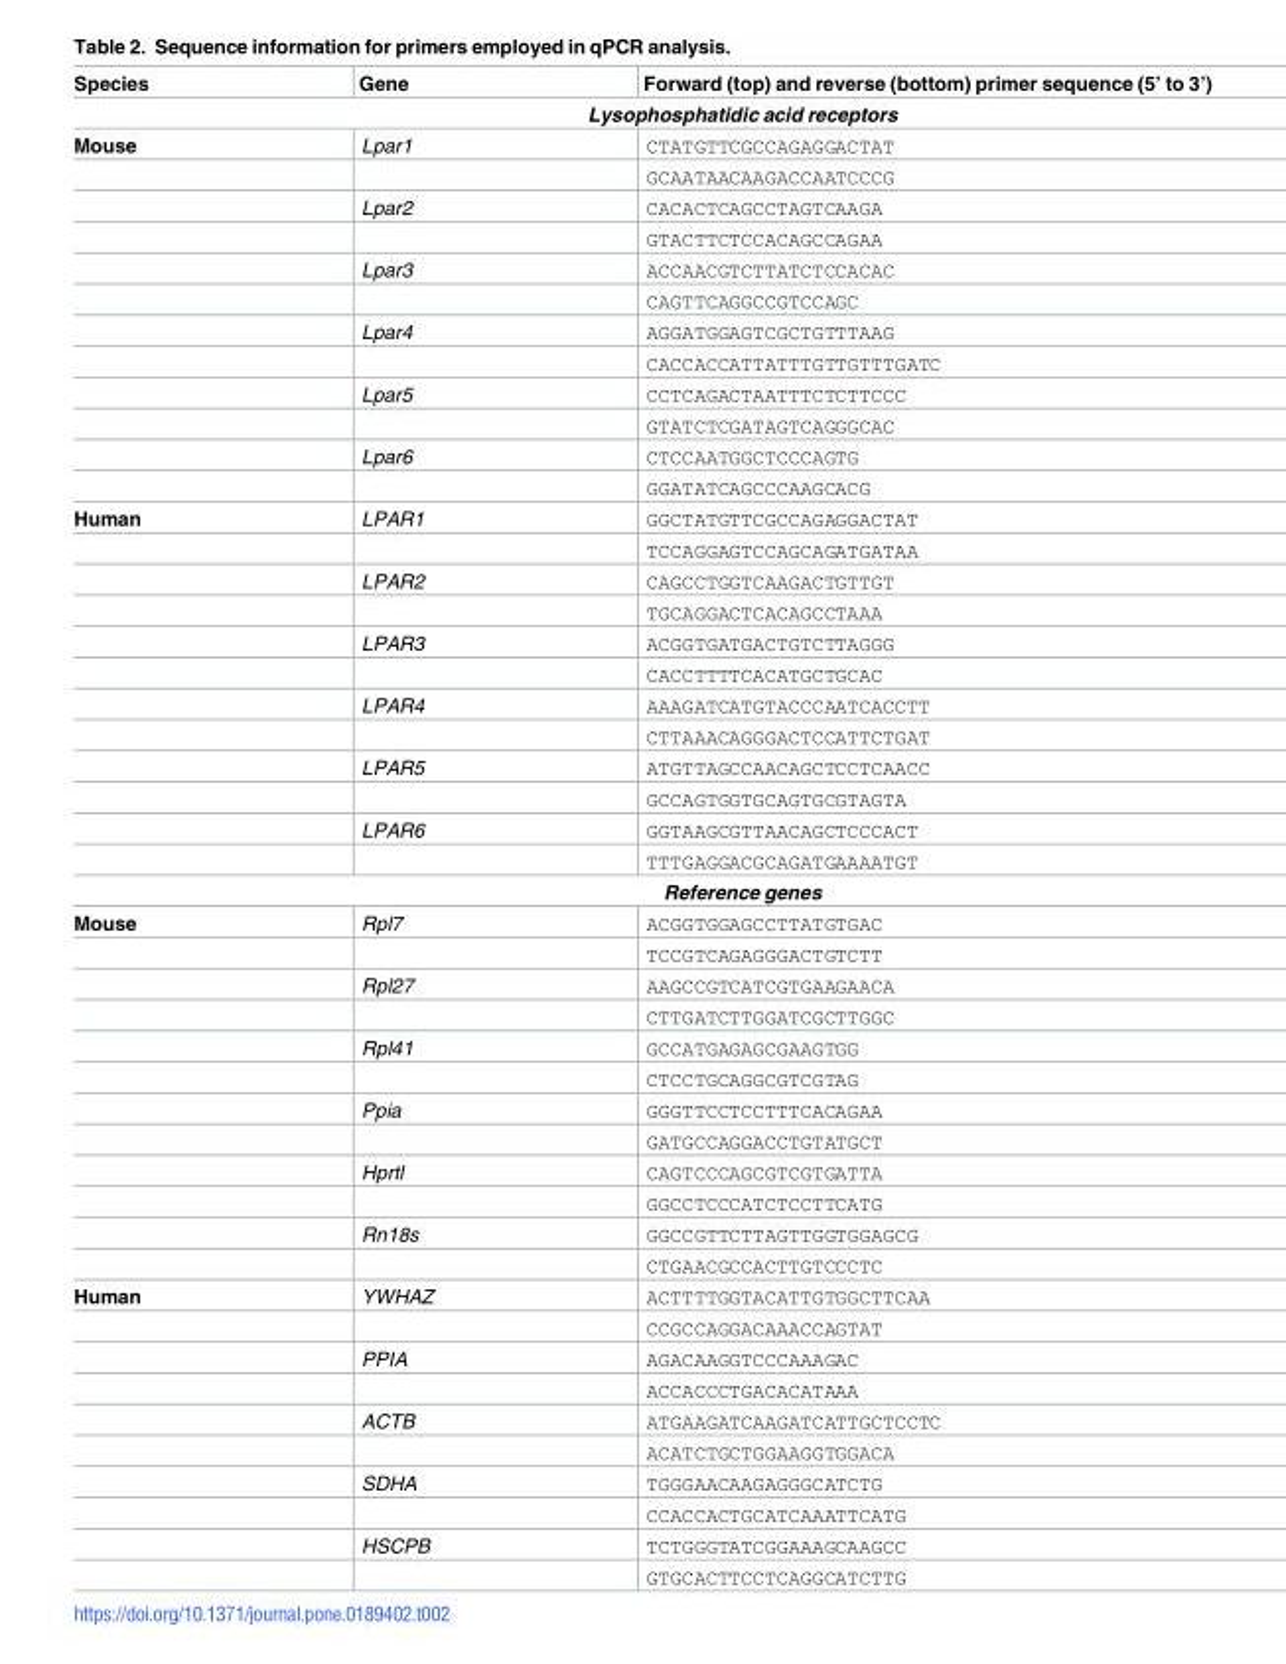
<table><thead><tr><td>Species</td><td>Gene</td><td>Forward (top) and reverse (bottom) primer sequence (5’ to 3’)</td></tr></thead><tbody><tr><td colspan="3">Lysophosphatidic acid receptors</td></tr><tr><td rowspan="12">Mouse</td><td>Lpar1</td><td>CTATGTTCGCCAGAGGACTAT</td></tr><tr><td></td><td>GCAATAACAAGACCAATCCCG</td></tr><tr><td>Lpar2</td><td>CACACTCAGCCTAGTCAAGA</td></tr><tr><td></td><td>GTACTTCTCCACAGCCAGAA</td></tr><tr><td>Lpar3</td><td>ACCAACGTCTTATCTCCACAC</td></tr><tr><td></td><td>CAGTTCAGGCCGTCCAGC</td></tr><tr><td>Lpar4</td><td>AGGATGGAGTCGCTGTTTAAG</td></tr><tr><td></td><td>CACCACCATTATTTGTTGTTTGATC</td></tr><tr><td>Lpar5</td><td>CCTCAGACTAATTTCTCTTCCC</td></tr><tr><td></td><td>GTATCTCGATAGTCAGGGCAC</td></tr><tr><td>Lpar6</td><td>CTCCAATGGCTCCCAGTG</td></tr><tr><td></td><td>GGATATCAGCCCAAGCACG</td></tr><tr><td rowspan="12">Human</td><td>LPAR1</td><td>GGCTATGTTCGCCAGAGGACTAT</td></tr><tr><td></td><td>TCCAGGAGTCCAGCAGATGATAA</td></tr><tr><td>LPAR2</td><td>CAGCCTGGTCAAGACTGTTGT</td></tr><tr><td></td><td>TGCAGGACTCACAGCCTAAA</td></tr><tr><td>LPAR3</td><td>ACGGTGATGACTGTCTTAGGG</td></tr><tr><td></td><td>CACCTTTTCACATGCTGCAC</td></tr><tr><td>LPAR4</td><td>AAAGATCATGTACCCAATCACCTT</td></tr><tr><td></td><td>CTTAAACAGGGACTCCATTCTGAT</td></tr><tr><td>LPAR5</td><td>ATGTTAGCCAACAGCTCCTCAACC</td></tr><tr><td></td><td>GCCAGTGGTGCAGTGCGTAGTA</td></tr><tr><td>LPAR6</td><td>GGTAAGCGTTAACAGCTCCCACT</td></tr><tr><td></td><td>TTTGAGGACGCAGATGAAAATGT</td></tr><tr><td colspan="3">Reference genes</td></tr><tr><td rowspan="12">Mouse</td><td>Rpl7</td><td>ACGGTGGAGCCTTATGTGAC</td></tr><tr><td></td><td>TCCGTCAGAGGGACTGTCTT</td></tr><tr><td>Rpl27</td><td>AAGCCGTCATCGTGAAGAACA</td></tr><tr><td></td><td>CTTGATCTTGGATCGCTTGGC</td></tr><tr><td>Rpl41</td><td>GCCATGAGAGCGAAGTGG</td></tr><tr><td></td><td>CTCCTGCAGGCGTCGTAG</td></tr><tr><td>Ppia</td><td>GGGTTCCTCCTTTCACAGAA</td></tr><tr><td></td><td>GATGCCAGGACCTGTATGCT</td></tr><tr><td>Hprtl</td><td>CAGTCCCAGCGTCGTGATTA</td></tr><tr><td></td><td>GGCCTCCCATCTCCTTCATG</td></tr><tr><td>Rn18s</td><td>GGCCGTTCTTAGTTGGTGGAGCG</td></tr><tr><td></td><td>CTGAACGCCACTTGTCCCTC</td></tr><tr><td rowspan="10">Human</td><td>YWHAZ</td><td>ACTTTTGGTACATTGTGGCTTCAA</td></tr><tr><td></td><td>CCGCCAGGACAAACCAGTAT</td></tr><tr><td>PPIA</td><td>AGACAAGGTCCCAAAGAC</td></tr><tr><td></td><td>ACCACCCTGACACATAAA</td></tr><tr><td>ACTB</td><td>ATGAAGATCAAGATCATTGCTCCTC</td></tr><tr><td></td><td>ACATCTGCTGGAAGGTGGACA</td></tr><tr><td>SDHA</td><td>TGGGAACAAGAGGGCATCTG</td></tr><tr><td></td><td>CCACCACTGCATCAAATTCATG</td></tr><tr><td>HSCPB</td><td>TCTGGGTATCGGAAAGCAAGCC</td></tr><tr><td></td><td>GTGCACTTCCTCAGGCATCTTG</td></tr></tbody></table>